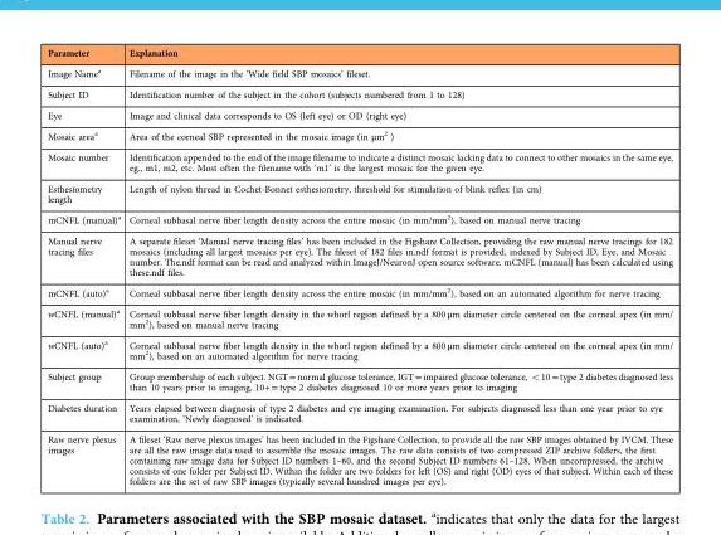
<table><thead><tr><td>Parameter</td><td>Explanation</td></tr></thead><tbody><tr><td>Image Name<sup>a</sup></td><td>Filename of the image in the ‘Wide field SBP mosaics’ fileset.</td></tr><tr><td>Subject ID</td><td>Identification number of the subject in the cohort (subjects numbered from 1 to 128)</td></tr><tr><td>Eye</td><td>Image and clinical data corresponds to OS (left eye) or OD (right eye)</td></tr><tr><td>Mosaic area<sup>a</sup></td><td>Area of the corneal SBP represented in the mosaic image (in μm<sup>2</sup> )</td></tr><tr><td>Mosaic number</td><td>Identification appended to the end of the image filename to indicate a distinct mosaic lacking data to connect to other mosaics in the same eye, eg., m1, m2, etc. Most often the filename with ‘m1’ is the largest mosaic for the given eye.</td></tr><tr><td>Esthesiometry length</td><td>Length of nylon thread in Cochet-Bonnet esthesiometry, threshold for stimulation of blink reflex (in cm)</td></tr><tr><td>mCNFL (manual)<sup>a</sup></td><td>Corneal subbasal nerve fiber length density across the entire mosaic (in mm/mm<sup>2</sup>), based on manual nerve tracing</td></tr><tr><td>Manual nerve tracing files</td><td>A separate fileset ‘Manual nerve tracing files’ has been included in the Figshare Collection, providing the raw manual nerve tracings for 182 mosaics (including all largest mosaics per eye). The fileset of 182 files in.ndf format is provided, indexed by Subject ID, Eye, and Mosaic number. The.ndf format can be read and analyzed within ImageJ/NeuronJ open source software. mCNFL (manual) has been calculated using these.ndf files.</td></tr><tr><td>mCNFL (auto)<sup>a</sup></td><td>Corneal subbasal nerve fiber length density across the entire mosaic (in mm/mm<sup>2</sup>), based on an automated algorithm for nerve tracing</td></tr><tr><td>wCNFL (manual)<sup>a</sup></td><td>Corneal subbasal nerve fiber length density in the whorl region defined by a 800 μm diameter circle centered on the corneal apex (in mm/ mm<sup>2</sup>), based on manual nerve tracing</td></tr><tr><td>wCNFL (auto)<sup>a</sup></td><td>Corneal subbasal nerve fiber length density in the whorl region defined by a 800 μm diameter circle centered on the corneal apex (in mm/ mm<sup>2</sup>), based on an automated algorithm for nerve tracing</td></tr><tr><td>Subject group</td><td>Group membership of each subject. NGT = normal glucose tolerance, IGT = impaired glucose tolerance, &lt;10 = type 2 diabetes diagnosed less than 10 years prior to imaging, 10+ = type 2 diabetes diagnosed 10 or more years prior to imaging</td></tr><tr><td>Diabetes duration</td><td>Years elapsed between diagnosis of type 2 diabetes and eye imaging examination. For subjects diagnosed less than one year prior to eye examination, ‘Newly diagnosed’ is indicated.</td></tr><tr><td>Raw nerve plexus images</td><td>A fileset ‘Raw nerve plexus images’ has been included in the Figshare Collection, to provide all the raw SBP images obtained by IVCM. These are all the raw image data used to assemble the mosaic images. The raw data consists of two compressed ZIP archive folders, the first containing raw image data for Subject ID numbers 1–60, and the second Subject ID numbers 61–128. When uncompressed, the archive consists of one folder per Subject ID. Within the folder are two folders for left (OS) and right (OD) eyes of that subject. Within each of these folders are the set of raw SBP images (typically several hundred images per eye).</td></tr></tbody></table>